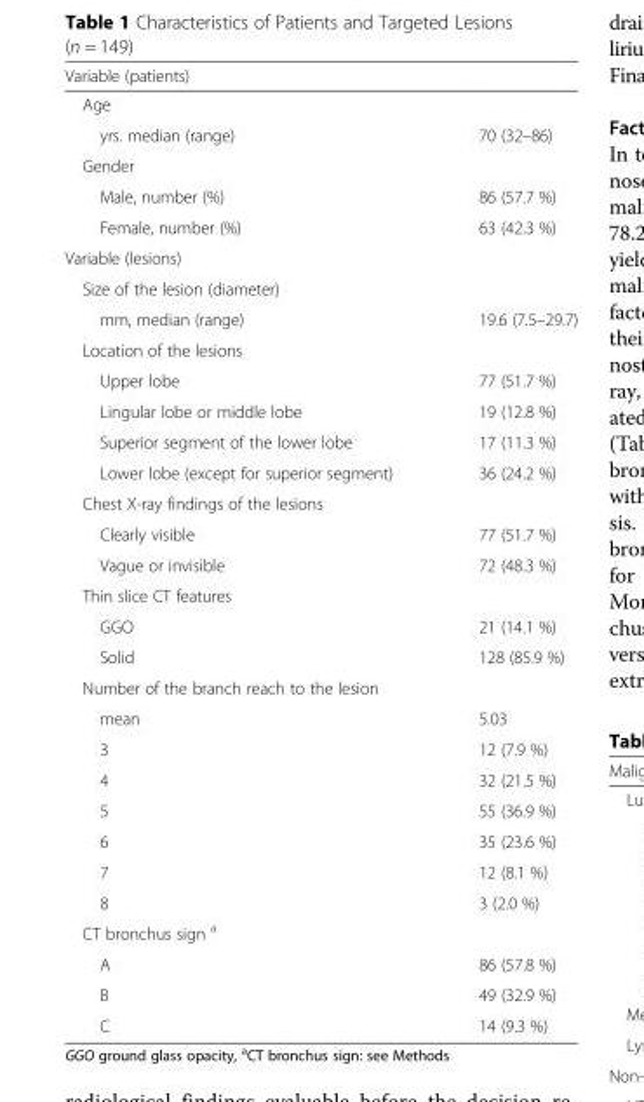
<table><thead><tr><td>Variable (patients)</td><td></td></tr></thead><tbody><tr><td colspan="2">Age</td></tr><tr><td>yrs. median (range)</td><td>70 (32–86)</td></tr><tr><td colspan="2">Gender</td></tr><tr><td>Male, number (%)</td><td>86 (57.7 %)</td></tr><tr><td>Female, number (%)</td><td>63 (42.3 %)</td></tr><tr><td colspan="2">Variable (lesions)</td></tr><tr><td colspan="2">Size of the lesion (diameter)</td></tr><tr><td>mm, median (range)</td><td>19.6 (7.5–29.7)</td></tr><tr><td colspan="2">Location of the lesions</td></tr><tr><td>Upper lobe</td><td>77 (51.7 %)</td></tr><tr><td>Lingular lobe or middle lobe</td><td>19 (12.8 %)</td></tr><tr><td>Superior segment of the lower lobe</td><td>17 (11.3 %)</td></tr><tr><td>Lower lobe (except for superior segment)</td><td>36 (24.2 %)</td></tr><tr><td colspan="2">Chest X-ray findings of the lesions</td></tr><tr><td>Clearly visible</td><td>77 (51.7 %)</td></tr><tr><td>Vague or invisible</td><td>72 (48.3 %)</td></tr><tr><td colspan="2">Thin slice CT features</td></tr><tr><td>GGO</td><td>21 (14.1 %)</td></tr><tr><td>Solid</td><td>128 (85.9 %)</td></tr><tr><td colspan="2">Number of the branch reach to the lesion</td></tr><tr><td>mean</td><td>5.03</td></tr><tr><td>3</td><td>12 (7.9 %)</td></tr><tr><td>4</td><td>32 (21.5 %)</td></tr><tr><td>5</td><td>55 (36.9 %)</td></tr><tr><td>6</td><td>35 (23.6 %)</td></tr><tr><td>7</td><td>12 (8.1 %)</td></tr><tr><td>8</td><td>3 (2.0 %)</td></tr><tr><td colspan="2">CT bronchus sign <sup>a</sup></td></tr><tr><td>A</td><td>86 (57.8 %)</td></tr><tr><td>B</td><td>49 (32.9 %)</td></tr><tr><td>C</td><td>14 (9.3 %)</td></tr></tbody></table>